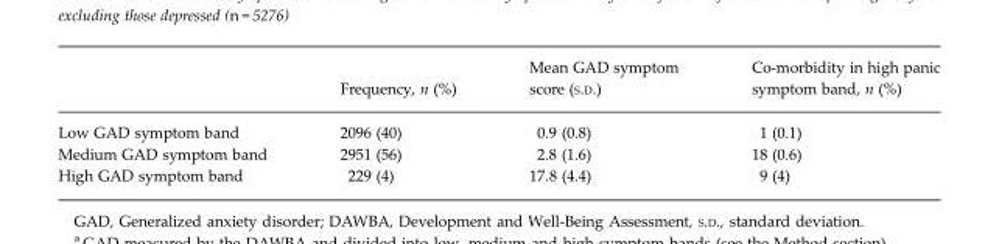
<table><thead><tr><td></td><td>Frequency, n (%)</td><td>Mean GAD symptom score (S.D.)</td><td>Co-morbidity in high panic symptom band, n (%)</td></tr></thead><tbody><tr><td>Low GAD symptom band</td><td>2096 (40)</td><td>0.9 (0.8)</td><td>1 (0.1)</td></tr><tr><td>Medium GAD symptom band</td><td>2951 (56)</td><td>2.8 (1.6)</td><td>18 (0.6)</td></tr><tr><td>High GAD symptom band</td><td>229 (4)</td><td>17.8 (4.4)</td><td>9 (4)</td></tr></tbody></table>